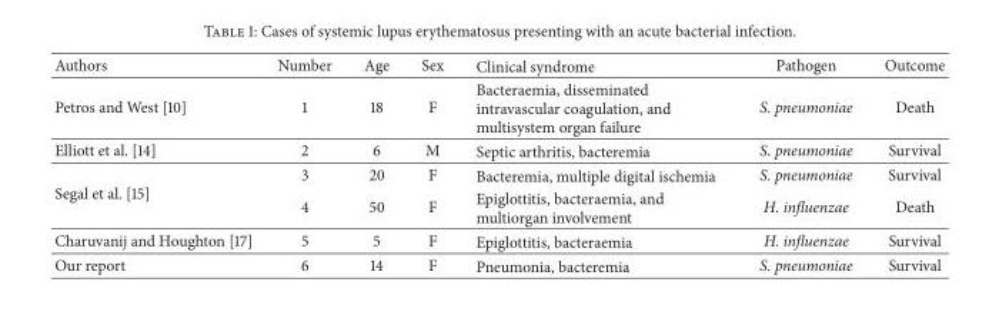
<table><thead><tr><td>Authors</td><td>Number</td><td>Age</td><td>Sex</td><td>Clinical syndrome</td><td>Pathogen</td><td>Outcome</td></tr></thead><tbody><tr><td>Petros and West [10]</td><td>1</td><td>18</td><td>F</td><td>Bacteraemia, disseminated intravascular coagulation, and multisystem organ failure</td><td>S. pneumoniae</td><td>Death</td></tr><tr><td>Elliott et al. [14]</td><td>2</td><td>6</td><td>M</td><td>Septic arthritis, bacteremia</td><td>S. pneumoniae</td><td>Survival</td></tr><tr><td rowspan="2">Segal et al. [15]</td><td>3</td><td>20</td><td>F</td><td>Bacteremia, multiple digital ischemia</td><td>S. pneumoniae</td><td>Survival</td></tr><tr><td>4</td><td>50</td><td>F</td><td>Epiglottitis, bacteraemia, and multiorgan involvement</td><td>H. influenzae</td><td>Death</td></tr><tr><td>Charuvanij and Houghton [17]</td><td>5</td><td>5</td><td>F</td><td>Epiglottitis, bacteraemia</td><td>H. influenzae</td><td>Survival</td></tr><tr><td>Our report</td><td>6</td><td>14</td><td>F</td><td>Pneumonia, bacteremia</td><td>S. pneumoniae</td><td>Survival</td></tr></tbody></table>